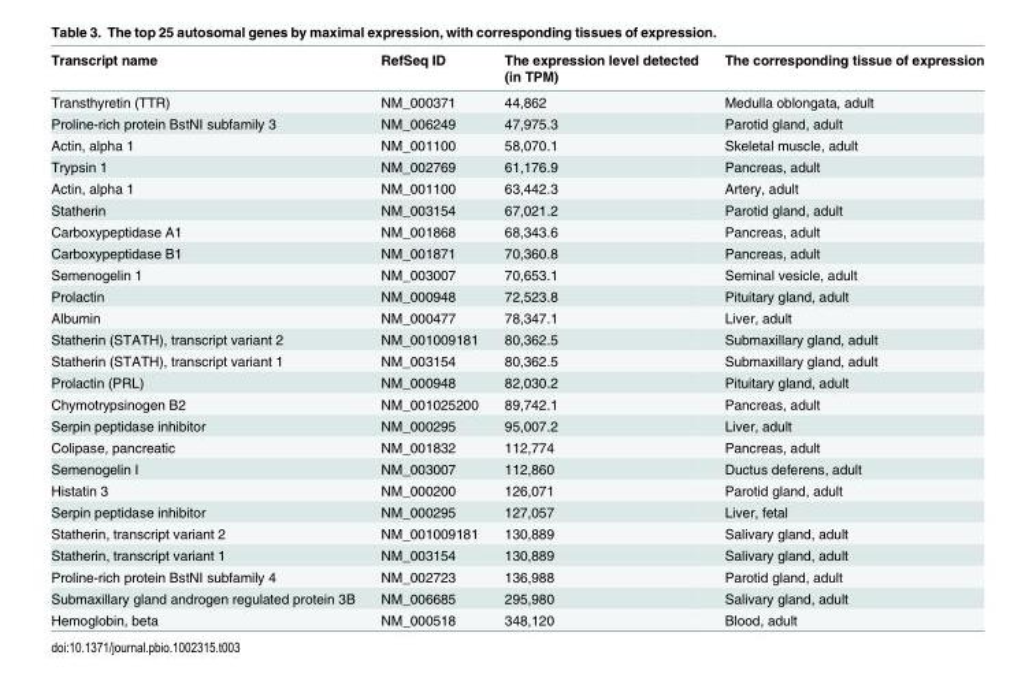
<table><thead><tr><td>Transcript name</td><td>RefSeq ID</td><td>The expression level detected (in TPM)</td><td>The corresponding tissue of expression</td></tr></thead><tbody><tr><td>Transthyretin (TTR)</td><td>NM_000371</td><td>44,862</td><td>Medulla oblongata, adult</td></tr><tr><td>Proline-rich protein BstNI subfamily 3</td><td>NM_006249</td><td>47,975.3</td><td>Parotid gland, adult</td></tr><tr><td>Actin, alpha 1</td><td>NM_001100</td><td>58,070.1</td><td>Skeletal muscle, adult</td></tr><tr><td>Trypsin 1</td><td>NM_002769</td><td>61,176.9</td><td>Pancreas, adult</td></tr><tr><td>Actin, alpha 1</td><td>NM_001100</td><td>63,442.3</td><td>Artery, adult</td></tr><tr><td>Statherin</td><td>NM_003154</td><td>67,021.2</td><td>Parotid gland, adult</td></tr><tr><td>Carboxypeptidase A1</td><td>NM_001868</td><td>68,343.6</td><td>Pancreas, adult</td></tr><tr><td>Carboxypeptidase B1</td><td>NM_001871</td><td>70,360.8</td><td>Pancreas, adult</td></tr><tr><td>Semenogelin 1</td><td>NM_003007</td><td>70,653.1</td><td>Seminal vesicle, adult</td></tr><tr><td>Prolactin</td><td>NM_000948</td><td>72,523.8</td><td>Pituitary gland, adult</td></tr><tr><td>Albumin</td><td>NM_000477</td><td>78,347.1</td><td>Liver, adult</td></tr><tr><td>Statherin (STATH), transcript variant 2</td><td>NM_001009181</td><td>80,362.5</td><td>Submaxillary gland, adult</td></tr><tr><td>Statherin (STATH), transcript variant 1</td><td>NM_003154</td><td>80,362.5</td><td>Submaxillary gland, adult</td></tr><tr><td>Prolactin (PRL)</td><td>NM_000948</td><td>82,030.2</td><td>Pituitary gland, adult</td></tr><tr><td>Chymotrypsinogen B2</td><td>NM_001025200</td><td>89,742.1</td><td>Pancreas, adult</td></tr><tr><td>Serpin peptidase inhibitor</td><td>NM_000295</td><td>95,007.2</td><td>Liver, adult</td></tr><tr><td>Colipase, pancreatic</td><td>NM_001832</td><td>112,774</td><td>Pancreas, adult</td></tr><tr><td>Semenogelin I</td><td>NM_003007</td><td>112,860</td><td>Ductus deferens, adult</td></tr><tr><td>Histatin 3</td><td>NM_000200</td><td>126,071</td><td>Parotid gland, adult</td></tr><tr><td>Serpin peptidase inhibitor</td><td>NM_000295</td><td>127,057</td><td>Liver, fetal</td></tr><tr><td>Statherin, transcript variant 2</td><td>NM_001009181</td><td>130,889</td><td>Salivary gland, adult</td></tr><tr><td>Statherin, transcript variant 1</td><td>NM_003154</td><td>130,889</td><td>Salivary gland, adult</td></tr><tr><td>Proline-rich protein BstNI subfamily 4</td><td>NM_002723</td><td>136,988</td><td>Parotid gland, adult</td></tr><tr><td>Submaxillary gland androgen regulated protein 3B</td><td>NM_006685</td><td>295,980</td><td>Salivary gland, adult</td></tr><tr><td>Hemoglobin, beta</td><td>NM_000518</td><td>348,120</td><td>Blood, adult</td></tr></tbody></table>